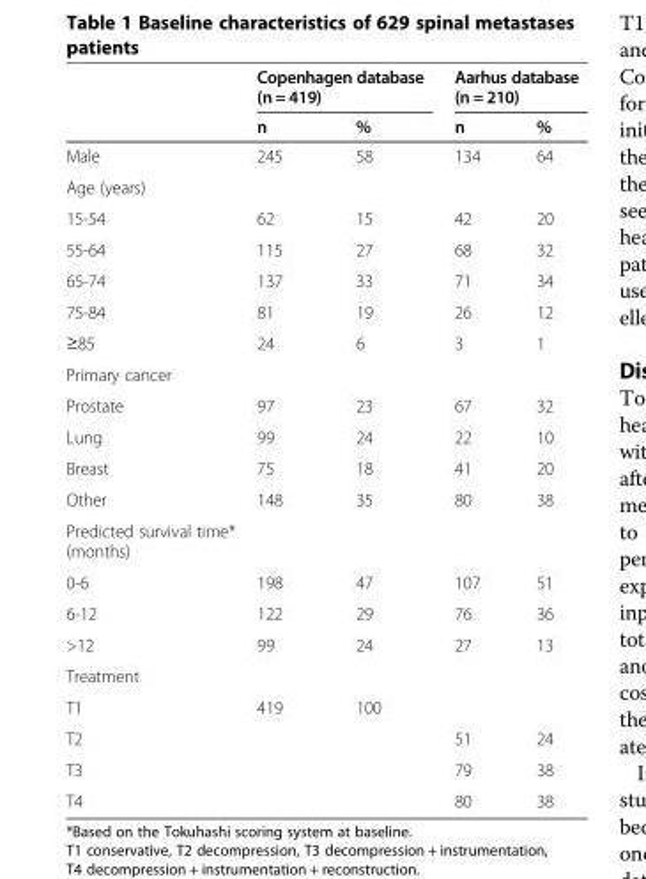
<table><thead><tr><td rowspan="2"></td><td colspan="2">Copenhagen database (n = 419)</td><td colspan="2">Aarhus database (n = 210)</td></tr><tr><td>n</td><td>%</td><td>n</td><td>%</td></tr></thead><tbody><tr><td>Male</td><td>245</td><td>58</td><td>134</td><td>64</td></tr><tr><td colspan="5">Age (years)</td></tr><tr><td>15-54</td><td>62</td><td>15</td><td>42</td><td>20</td></tr><tr><td>55-64</td><td>115</td><td>27</td><td>68</td><td>32</td></tr><tr><td>65-74</td><td>137</td><td>33</td><td>71</td><td>34</td></tr><tr><td>75-84</td><td>81</td><td>19</td><td>26</td><td>12</td></tr><tr><td>≥85</td><td>24</td><td>6</td><td>3</td><td>1</td></tr><tr><td colspan="5">Primary cancer</td></tr><tr><td>Prostate</td><td>97</td><td>23</td><td>67</td><td>32</td></tr><tr><td>Lung</td><td>99</td><td>24</td><td>22</td><td>10</td></tr><tr><td>Breast</td><td>75</td><td>18</td><td>41</td><td>20</td></tr><tr><td>Other</td><td>148</td><td>35</td><td>80</td><td>38</td></tr><tr><td colspan="5">Predicted survival time* (months)</td></tr><tr><td>0-6</td><td>198</td><td>47</td><td>107</td><td>51</td></tr><tr><td>6-12</td><td>122</td><td>29</td><td>76</td><td>36</td></tr><tr><td>&gt;12</td><td>99</td><td>24</td><td>27</td><td>13</td></tr><tr><td colspan="5">Treatment</td></tr><tr><td>T1</td><td>419</td><td>100</td><td></td><td></td></tr><tr><td>T2</td><td></td><td></td><td>51</td><td>24</td></tr><tr><td>T3</td><td></td><td></td><td>79</td><td>38</td></tr><tr><td>T4</td><td></td><td></td><td>80</td><td>38</td></tr></tbody></table>